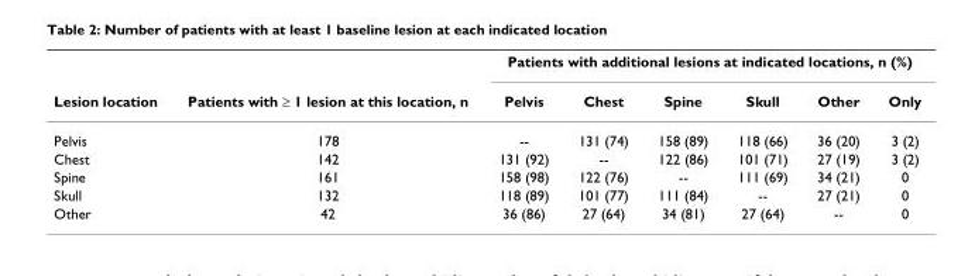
<table><thead><tr><td rowspan="2">Lesion location</td><td rowspan="2">Patients with ≥ 1 lesion at this location, n</td><td colspan="6">Patients with additional lesions at indicated locations, n (%)</td></tr><tr><td>Pelvis</td><td>Chest</td><td>Spine</td><td>Skull</td><td>Other</td><td>Only</td></tr></thead><tbody><tr><td>Pelvis</td><td>178</td><td>--</td><td>131 (74)</td><td>158 (89)</td><td>118 (66)</td><td>36 (20)</td><td>3 (2)</td></tr><tr><td>Chest</td><td>142</td><td>131 (92)</td><td>--</td><td>122 (86)</td><td>101 (71)</td><td>27 (19)</td><td>3 (2)</td></tr><tr><td>Spine</td><td>161</td><td>158 (98)</td><td>122 (76)</td><td>--</td><td>111 (69)</td><td>34 (21)</td><td>0</td></tr><tr><td>Skull</td><td>132</td><td>118 (89)</td><td>101 (77)</td><td>111 (84)</td><td>--</td><td>27 (21)</td><td>0</td></tr><tr><td>Other</td><td>42</td><td>36 (86)</td><td>27 (64)</td><td>34 (81)</td><td>27 (64)</td><td>--</td><td>0</td></tr></tbody></table>